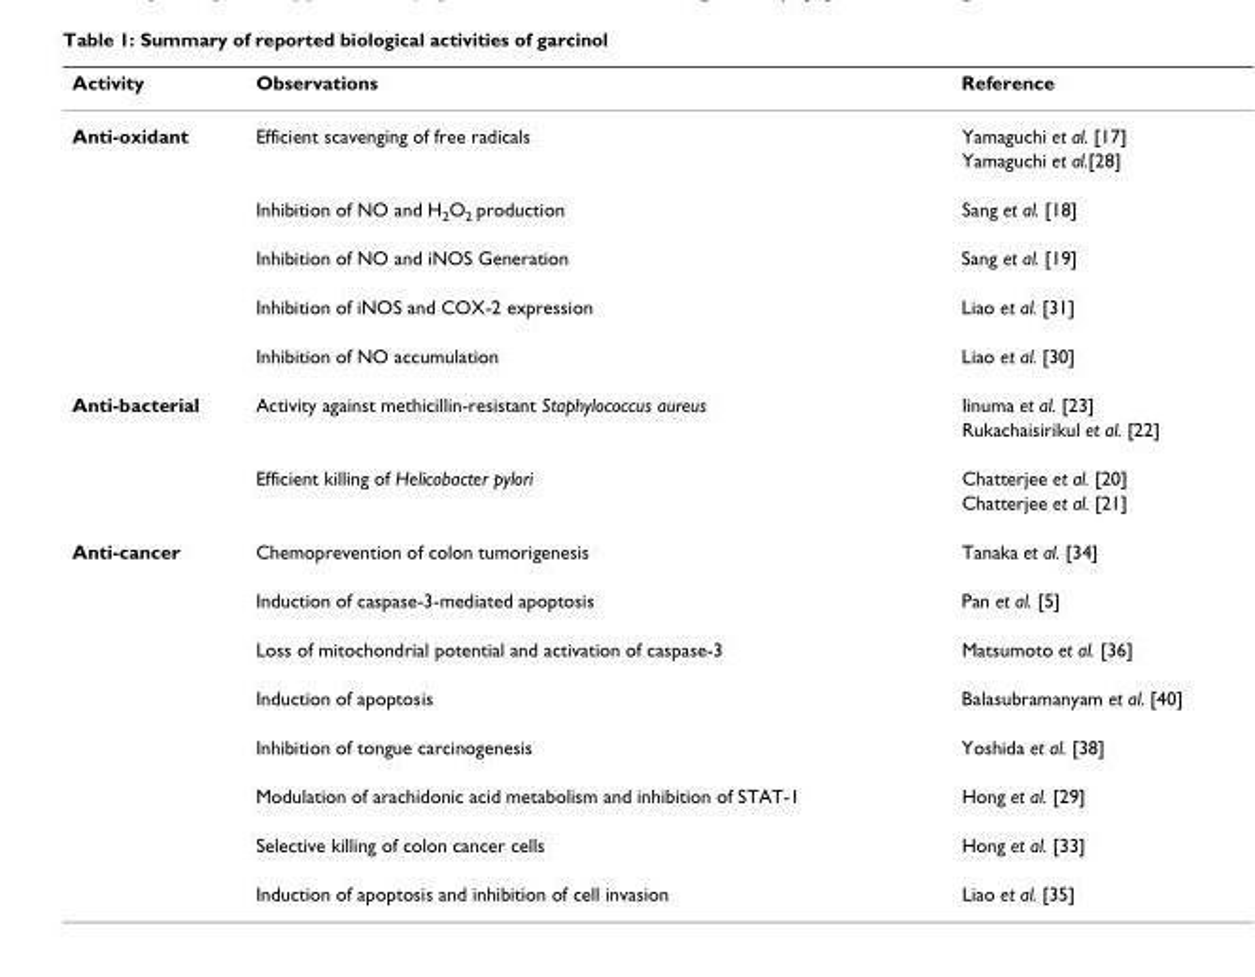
<table><thead><tr><td>Activity</td><td>Observations</td><td>Reference</td></tr></thead><tbody><tr><td rowspan="6">Anti-oxidant</td><td>Efficient scavenging of free radicals</td><td>Yamaguchi et al. [17]</td></tr><tr><td></td><td>Yamaguchi et al.[28]</td></tr><tr><td>Inhibition of NO and H<sub>2</sub>O<sub>2</sub> production</td><td>Sang et al. [18]</td></tr><tr><td>Inhibition of NO and iNOS Generation</td><td>Sang et al. [19]</td></tr><tr><td>Inhibition of iNOS and COX-2 expression</td><td>Liao et al. [31]</td></tr><tr><td>Inhibition of NO accumulation</td><td>Liao et al. [30]</td></tr><tr><td rowspan="4">Anti-bacterial</td><td>Activity against methicillin-resistant Staphylococcus aureus</td><td>Iinuma et al. [23]</td></tr><tr><td></td><td>Rukachaisirikul et al. [22]</td></tr><tr><td>Efficient killing of Helicobacter pylori</td><td>Chatterjee et al. [20]</td></tr><tr><td></td><td>Chatterjee et al. [21]</td></tr><tr><td rowspan="8">Anti-cancer</td><td>Chemoprevention of colon tumorigenesis</td><td>Tanaka et al. [34]</td></tr><tr><td>Induction of caspase-3-mediated apoptosis</td><td>Pan et al. [5]</td></tr><tr><td>Loss of mitochondrial potential and activation of caspase-3</td><td>Matsumoto et al. [36]</td></tr><tr><td>Induction of apoptosis</td><td>Balasubramanyam et al. [40]</td></tr><tr><td>Inhibition of tongue carcinogenesis</td><td>Yoshida et al. [38]</td></tr><tr><td>Modulation of arachidonic acid metabolism and inhibition of STAT-1</td><td>Hong et al. [29]</td></tr><tr><td>Selective killing of colon cancer cells</td><td>Hong et al. [33]</td></tr><tr><td>Induction of apoptosis and inhibition of cell invasion</td><td>Liao et al. [35]</td></tr></tbody></table>